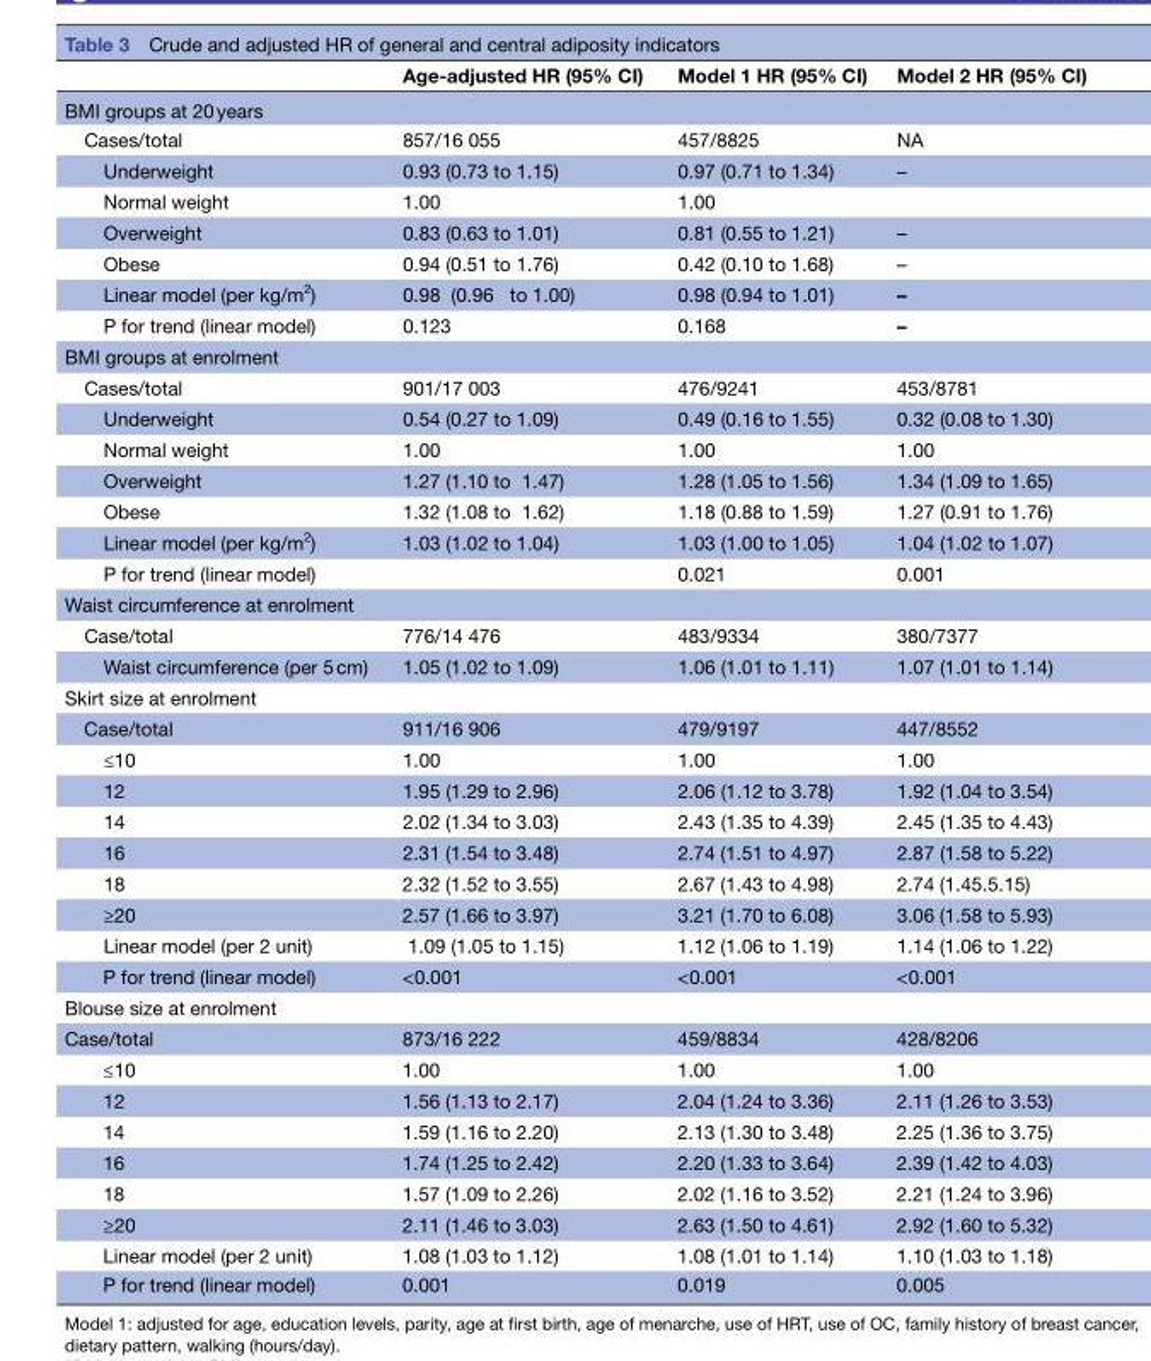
<table><thead><tr><td></td><td>Age-adjusted HR (95% CI)</td><td>Model 1 HR (95% CI)</td><td>Model 2 HR (95% CI)</td></tr></thead><tbody><tr><td colspan="4">BMI groups at 20 years</td></tr><tr><td>Cases/total</td><td>857/16 055</td><td>457/8825</td><td>NA</td></tr><tr><td>Underweight</td><td>0.93 (0.73 to 1.15)</td><td>0.97 (0.71 to 1.34)</td><td>–</td></tr><tr><td>Normal weight</td><td>1.00</td><td>1.00</td><td></td></tr><tr><td>Overweight</td><td>0.83 (0.63 to 1.01)</td><td>0.81 (0.55 to 1.21)</td><td>–</td></tr><tr><td>Obese</td><td>0.94 (0.51 to 1.76)</td><td>0.42 (0.10 to 1.68)</td><td>–</td></tr><tr><td>Linear model (per kg/m<sup>2</sup>)</td><td>0.98 (0.96 to 1.00)</td><td>0.98 (0.94 to 1.01)</td><td>–</td></tr><tr><td>P for trend (linear model)</td><td>0.123</td><td>0.168</td><td>–</td></tr><tr><td colspan="4">BMI groups at enrolment</td></tr><tr><td>Cases/total</td><td>901/17 003</td><td>476/9241</td><td>453/8781</td></tr><tr><td>Underweight</td><td>0.54 (0.27 to 1.09)</td><td>0.49 (0.16 to 1.55)</td><td>0.32 (0.08 to 1.30)</td></tr><tr><td>Normal weight</td><td>1.00</td><td>1.00</td><td>1.00</td></tr><tr><td>Overweight</td><td>1.27 (1.10 to 1.47)</td><td>1.28 (1.05 to 1.56)</td><td>1.34 (1.09 to 1.65)</td></tr><tr><td>Obese</td><td>1.32 (1.08 to 1.62)</td><td>1.18 (0.88 to 1.59)</td><td>1.27 (0.91 to 1.76)</td></tr><tr><td>Linear model (per kg/m<sup>2</sup>)</td><td>1.03 (1.02 to 1.04)</td><td>1.03 (1.00 to 1.05)</td><td>1.04 (1.02 to 1.07)</td></tr><tr><td colspan="2">P for trend (linear model)</td><td>0.021</td><td>0.001</td></tr><tr><td colspan="4">Waist circumference at enrolment</td></tr><tr><td>Case/total</td><td>776/14 476</td><td>483/9334</td><td>380/7377</td></tr><tr><td>Waist circumference (per 5 cm)</td><td>1.05 (1.02 to 1.09)</td><td>1.06 (1.01 to 1.11)</td><td>1.07 (1.01 to 1.14)</td></tr><tr><td colspan="4">Skirt size at enrolment</td></tr><tr><td>Case/total</td><td>911/16 906</td><td>479/9197</td><td>447/8552</td></tr><tr><td>≤10</td><td>1.00</td><td>1.00</td><td>1.00</td></tr><tr><td>12</td><td>1.95 (1.29 to 2.96)</td><td>2.06 (1.12 to 3.78)</td><td>1.92 (1.04 to 3.54)</td></tr><tr><td>14</td><td>2.02 (1.34 to 3.03)</td><td>2.43 (1.35 to 4.39)</td><td>2.45 (1.35 to 4.43)</td></tr><tr><td>16</td><td>2.31 (1.54 to 3.48)</td><td>2.74 (1.51 to 4.97)</td><td>2.87 (1.58 to 5.22)</td></tr><tr><td>18</td><td>2.32 (1.52 to 3.55)</td><td>2.67 (1.43 to 4.98)</td><td>2.74 (1.45.5.15)</td></tr><tr><td>≥20</td><td>2.57 (1.66 to 3.97)</td><td>3.21 (1.70 to 6.08)</td><td>3.06 (1.58 to 5.93)</td></tr><tr><td>Linear model (per 2 unit)</td><td>1.09 (1.05 to 1.15)</td><td>1.12 (1.06 to 1.19)</td><td>1.14 (1.06 to 1.22)</td></tr><tr><td>P for trend (linear model)</td><td>&lt;0.001</td><td>&lt;0.001</td><td>&lt;0.001</td></tr><tr><td colspan="4">Blouse size at enrolment</td></tr><tr><td>Case/total</td><td>873/16 222</td><td>459/8834</td><td>428/8206</td></tr><tr><td>≤10</td><td>1.00</td><td>1.00</td><td>1.00</td></tr><tr><td>12</td><td>1.56 (1.13 to 2.17)</td><td>2.04 (1.24 to 3.36)</td><td>2.11 (1.26 to 3.53)</td></tr><tr><td>14</td><td>1.59 (1.16 to 2.20)</td><td>2.13 (1.30 to 3.48)</td><td>2.25 (1.36 to 3.75)</td></tr><tr><td>16</td><td>1.74 (1.25 to 2.42)</td><td>2.20 (1.33 to 3.64)</td><td>2.39 (1.42 to 4.03)</td></tr><tr><td>18</td><td>1.57 (1.09 to 2.26)</td><td>2.02 (1.16 to 3.52)</td><td>2.21 (1.24 to 3.96)</td></tr><tr><td>≥20</td><td>2.11 (1.46 to 3.03)</td><td>2.63 (1.50 to 4.61)</td><td>2.92 (1.60 to 5.32)</td></tr><tr><td>Linear model (per 2 unit)</td><td>1.08 (1.03 to 1.12)</td><td>1.08 (1.01 to 1.14)</td><td>1.10 (1.03 to 1.18)</td></tr><tr><td>P for trend (linear model)</td><td>0.001</td><td>0.019</td><td>0.005</td></tr></tbody></table>